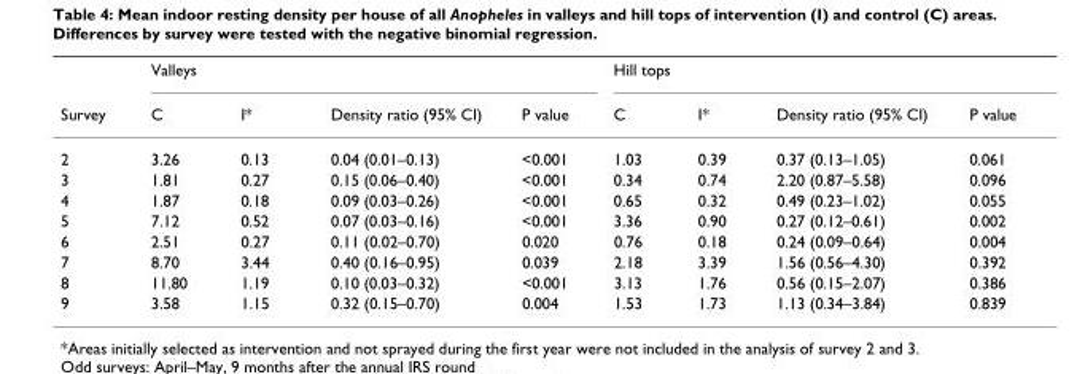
<table><thead><tr><td rowspan="2">Survey</td><td colspan="4">Valleys</td><td colspan="4">Hill tops</td></tr><tr><td>C</td><td>I*</td><td>Density ratio (95% CI)</td><td>P value</td><td>C</td><td>I*</td><td>Density ratio (95% CI)</td><td>P value</td></tr></thead><tbody><tr><td>2</td><td>3.26</td><td>0.13</td><td>0.04 (0.01–0.13)</td><td>&lt;0.001</td><td>1.03</td><td>0.39</td><td>0.37 (0.13–1.05)</td><td>0.061</td></tr><tr><td>3</td><td>1.81</td><td>0.27</td><td>0.15 (0.06–0.40)</td><td>&lt;0.001</td><td>0.34</td><td>0.74</td><td>2.20 (0.87–5.58)</td><td>0.096</td></tr><tr><td>4</td><td>1.87</td><td>0.18</td><td>0.09 (0.03–0.26)</td><td>&lt;0.001</td><td>0.65</td><td>0.32</td><td>0.49 (0.23–1.02)</td><td>0.055</td></tr><tr><td>5</td><td>7.12</td><td>0.52</td><td>0.07 (0.03–0.16)</td><td>&lt;0.001</td><td>3.36</td><td>0.90</td><td>0.27 (0.12–0.61)</td><td>0.002</td></tr><tr><td>6</td><td>2.51</td><td>0.27</td><td>0.11 (0.02–0.70)</td><td>0.020</td><td>0.76</td><td>0.18</td><td>0.24 (0.09–0.64)</td><td>0.004</td></tr><tr><td>7</td><td>8.70</td><td>3.44</td><td>0.40 (0.16–0.95)</td><td>0.039</td><td>2.18</td><td>3.39</td><td>1.56 (0.56–4.30)</td><td>0.392</td></tr><tr><td>8</td><td>11.80</td><td>1.19</td><td>0.10 (0.03–0.32)</td><td>&lt;0.001</td><td>3.13</td><td>1.76</td><td>0.56 (0.15–2.07)</td><td>0.386</td></tr><tr><td>9</td><td>3.58</td><td>1.15</td><td>0.32 (0.15–0.70)</td><td>0.004</td><td>1.53</td><td>1.73</td><td>1.13 (0.34–3.84)</td><td>0.839</td></tr></tbody></table>